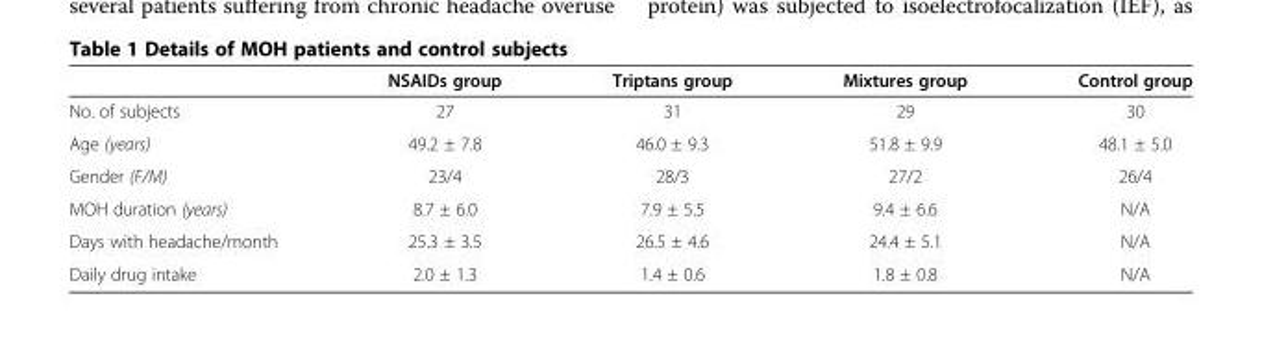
<table><thead><tr><td></td><td>NSAIDs group</td><td>Triptans group</td><td>Mixtures group</td><td>Control group</td></tr></thead><tbody><tr><td>No. of subjects</td><td>27</td><td>31</td><td>29</td><td>30</td></tr><tr><td>Age (years)</td><td>49.2 ± 7.8</td><td>46.0 ± 9.3</td><td>51.8 ± 9.9</td><td>48.1 ± 5.0</td></tr><tr><td>Gender (F/M)</td><td>23/4</td><td>28/3</td><td>27/2</td><td>26/4</td></tr><tr><td>MOH duration (years)</td><td>8.7 ± 6.0</td><td>7.9 ± 5.5</td><td>9.4 ± 6.6</td><td>N/A</td></tr><tr><td>Days with headache/month</td><td>25.3 ± 3.5</td><td>26.5 ± 4.6</td><td>24.4 ± 5.1</td><td>N/A</td></tr><tr><td>Daily drug intake</td><td>2.0 ± 1.3</td><td>1.4 ± 0.6</td><td>1.8 ± 0.8</td><td>N/A</td></tr></tbody></table>